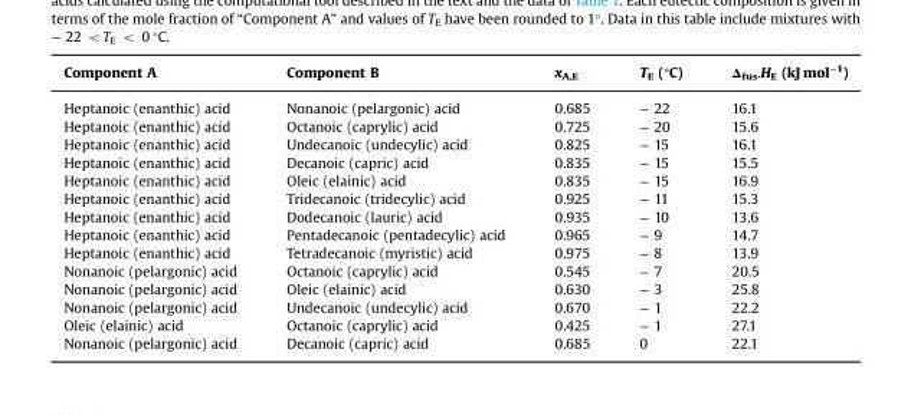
<table><thead><tr><td>Component A</td><td>Component B</td><td>x<sub>A,E</sub></td><td>T<sub>E</sub> (°C)</td><td>Δ<sub>fus</sub>.H<sub>E</sub> (kJ mol<sup>−1</sup>)</td></tr></thead><tbody><tr><td>Heptanoic (enanthic) acid</td><td>Nonanoic (pelargonic) acid</td><td>0.685</td><td>− 22</td><td>16.1</td></tr><tr><td>Heptanoic (enanthic) acid</td><td>Octanoic (caprylic) acid</td><td>0.725</td><td>− 20</td><td>15.6</td></tr><tr><td>Heptanoic (enanthic) acid</td><td>Undecanoic (undecylic) acid</td><td>0.825</td><td>− 15</td><td>16.1</td></tr><tr><td>Heptanoic (enanthic) acid</td><td>Decanoic (capric) acid</td><td>0.835</td><td>− 15</td><td>15.5</td></tr><tr><td>Heptanoic (enanthic) acid</td><td>Oleic (elainic) acid</td><td>0.835</td><td>− 15</td><td>16.9</td></tr><tr><td>Heptanoic (enanthic) acid</td><td>Tridecanoic (tridecylic) acid</td><td>0.925</td><td>− 11</td><td>15.3</td></tr><tr><td>Heptanoic (enanthic) acid</td><td>Dodecanoic (lauric) acid</td><td>0.935</td><td>− 10</td><td>13.6</td></tr><tr><td>Heptanoic (enanthic) acid</td><td>Pentadecanoic (pentadecylic) acid</td><td>0.965</td><td>− 9</td><td>14.7</td></tr><tr><td>Heptanoic (enanthic) acid</td><td>Tetradecanoic (myristic) acid</td><td>0.975</td><td>− 8</td><td>13.9</td></tr><tr><td>Nonanoic (pelargonic) acid</td><td>Octanoic (caprylic) acid</td><td>0.545</td><td>− 7</td><td>20.5</td></tr><tr><td>Nonanoic (pelargonic) acid</td><td>Oleic (elainic) acid</td><td>0.630</td><td>− 3</td><td>25.8</td></tr><tr><td>Nonanoic (pelargonic) acid</td><td>Undecanoic (undecylic) acid</td><td>0.670</td><td>− 1</td><td>22.2</td></tr><tr><td>Oleic (elainic) acid</td><td>Octanoic (caprylic) acid</td><td>0.425</td><td>− 1</td><td>27.1</td></tr><tr><td>Nonanoic (pelargonic) acid</td><td>Decanoic (capric) acid</td><td>0.685</td><td>0</td><td>22.1</td></tr></tbody></table>